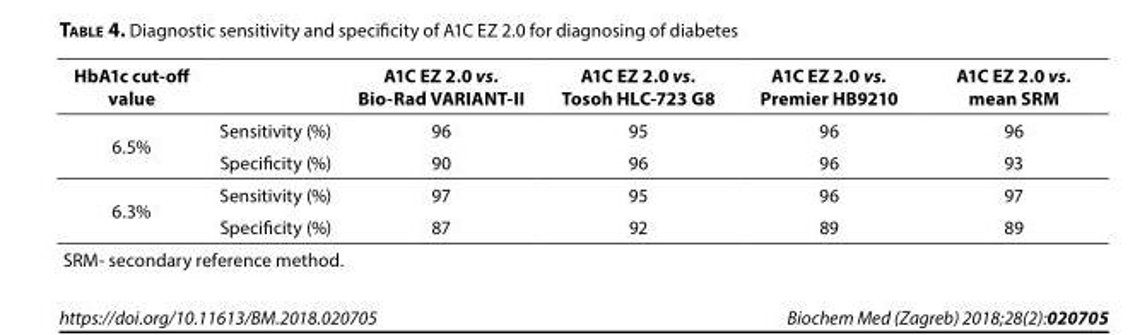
<table><thead><tr><td>HbA1c cut-off value</td><td></td><td>A1C EZ 2.0 vs. Bio-Rad VARIANT-II</td><td>A1C EZ 2.0 vs. Tosoh HLC-723 G8</td><td>A1C EZ 2.0 vs. Premier HB9210</td><td>A1C EZ 2.0 vs. mean SRM</td></tr></thead><tbody><tr><td rowspan="2">6.5%</td><td>Sensitivity (%)</td><td>96</td><td>95</td><td>96</td><td>96</td></tr><tr><td>Specificity (%)</td><td>90</td><td>96</td><td>96</td><td>93</td></tr><tr><td rowspan="2">6.3%</td><td>Sensitivity (%)</td><td>97</td><td>95</td><td>96</td><td>97</td></tr><tr><td>Specificity (%)</td><td>87</td><td>92</td><td>89</td><td>89</td></tr><tr><td colspan="6">SRM- secondary reference method.</td></tr></tbody></table>